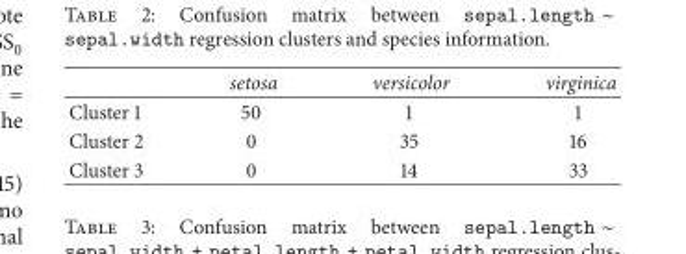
<table><thead><tr><td></td><td>setosa</td><td>versicolor</td><td>virginica</td></tr></thead><tbody><tr><td>Cluster 1</td><td>50</td><td>1</td><td>1</td></tr><tr><td>Cluster 2</td><td>0</td><td>35</td><td>16</td></tr><tr><td>Cluster 3</td><td>0</td><td>14</td><td>33</td></tr></tbody></table>